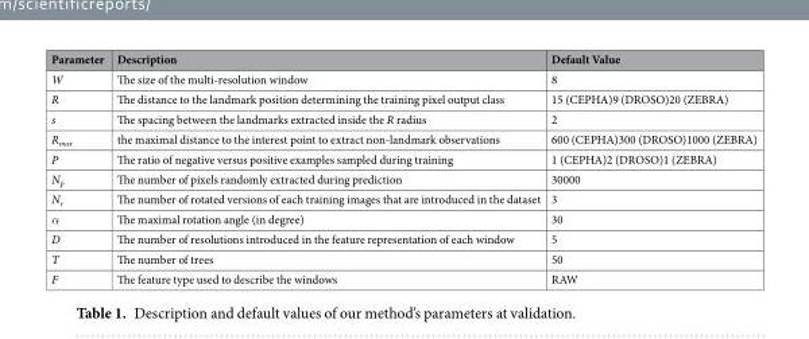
<table><thead><tr><td>Parameter</td><td>Description</td><td>Default Value</td></tr></thead><tbody><tr><td>W</td><td>The size of the multi-resolution window</td><td>8</td></tr><tr><td>R</td><td>The distance to the landmark position determining the training pixel output class</td><td>15 (CEPHA)9 (DROSO)20 (ZEBRA)</td></tr><tr><td>s</td><td>The spacing between the landmarks extracted inside the R radius</td><td>2</td></tr><tr><td>R<sub>max</sub></td><td>the maximal distance to the interest point to extract non-landmark observations</td><td>600 (CEPHA)300 (DROSO)1000 (ZEBRA)</td></tr><tr><td>P</td><td>The ratio of negative versus positive examples sampled during training</td><td>1 (CEPHA)2 (DROSO)1 (ZEBRA)</td></tr><tr><td>N<sub>p</sub></td><td>The number of pixels randomly extracted during prediction</td><td>30000</td></tr><tr><td>N<sub>r</sub></td><td>The number of rotated versions of each training images that are introduced in the dataset</td><td>3</td></tr><tr><td>α</td><td>The maximal rotation angle (in degree)</td><td>30</td></tr><tr><td>D</td><td>The number of resolutions introduced in the feature representation of each window</td><td>5</td></tr><tr><td>T</td><td>The number of trees</td><td>50</td></tr><tr><td>F</td><td>The feature type used to describe the windows</td><td>RAW</td></tr></tbody></table>